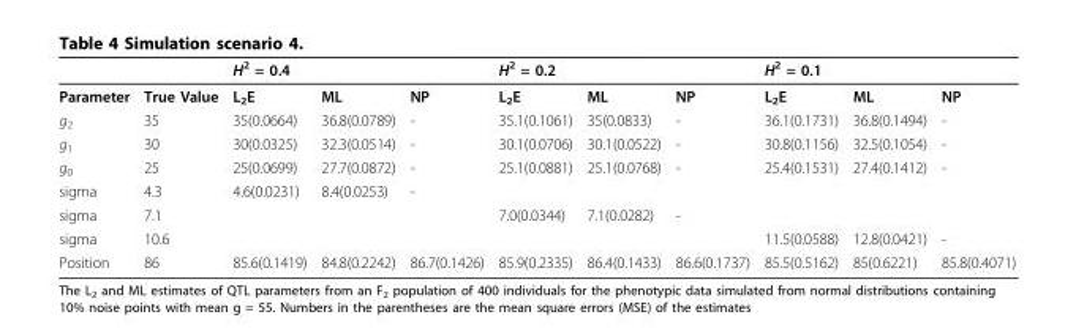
<table><thead><tr><td></td><td></td><td>H<sup>2</sup> = 0.4</td><td></td><td></td><td>H<sup>2</sup> = 0.2</td><td></td><td></td><td>H<sup>2</sup> = 0.1</td><td></td><td></td></tr></thead><tbody><tr><td>Parameter</td><td>True Value</td><td>L<sub>2</sub>E</td><td>ML</td><td>NP</td><td>L<sub>2</sub>E</td><td>ML</td><td>NP</td><td>L<sub>2</sub>E</td><td>ML</td><td>NP</td></tr><tr><td>g<sub>2</sub></td><td>35</td><td>35(0.0664)</td><td>36.8(0.0789)</td><td>-</td><td>35.1(0.1061)</td><td>35(0.0833)</td><td>-</td><td>36.1(0.1731)</td><td>36.8(0.1494)</td><td>-</td></tr><tr><td>g<sub>1</sub></td><td>30</td><td>30(0.0325)</td><td>32.3(0.0514)</td><td>-</td><td>30.1(0.0706)</td><td>30.1(0.0522)</td><td>-</td><td>30.8(0.1156)</td><td>32.5(0.1054)</td><td>-</td></tr><tr><td>g<sub>0</sub></td><td>25</td><td>25(0.0699)</td><td>27.7(0.0872)</td><td>-</td><td>25.1(0.0881)</td><td>25.1(0.0768)</td><td>-</td><td>25.4(0.1531)</td><td>27.4(0.1412)</td><td>-</td></tr><tr><td>sigma</td><td>4.3</td><td>4.6(0.0231)</td><td>8.4(0.0253)</td><td>-</td><td></td><td></td><td></td><td></td><td></td><td></td></tr><tr><td>sigma</td><td>7.1</td><td></td><td></td><td></td><td>7.0(0.0344)</td><td>7.1(0.0282)</td><td>-</td><td></td><td></td><td></td></tr><tr><td>sigma</td><td>10.6</td><td></td><td></td><td></td><td></td><td></td><td></td><td>11.5(0.0588)</td><td>12.8(0.0421)</td><td>-</td></tr><tr><td>Position</td><td>86</td><td>85.6(0.1419)</td><td>84.8(0.2242)</td><td>86.7(0.1426)</td><td>85.9(0.2335)</td><td>86.4(0.1433)</td><td>86.6(0.1737)</td><td>85.5(0.5162)</td><td>85(0.6221)</td><td>85.8(0.4071)</td></tr></tbody></table>